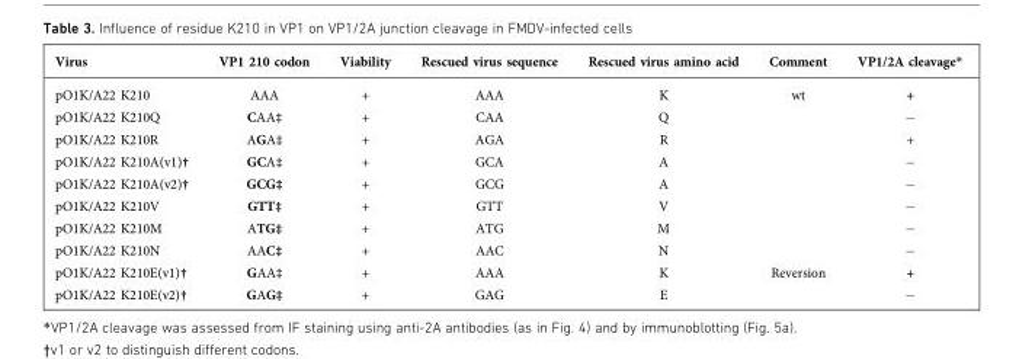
<table><thead><tr><td>Virus</td><td>VP1 210 codon</td><td>Viability</td><td>Rescued virus sequence</td><td>Rescued virus amino acid</td><td>Comment</td><td>VP1/2A cleavage*</td></tr></thead><tbody><tr><td>pO1K/A22 K210</td><td>AAA</td><td>+</td><td>AAA</td><td>K</td><td>wt</td><td>+</td></tr><tr><td>pO1K/A22 K210Q</td><td>CAA‡</td><td>+</td><td>CAA</td><td>Q</td><td></td><td>−</td></tr><tr><td>pO1K/A22 K210R</td><td>AGA‡</td><td>+</td><td>AGA</td><td>R</td><td></td><td>+</td></tr><tr><td>pO1K/A22 K210A(v1)†</td><td>GCA‡</td><td>+</td><td>GCA</td><td>A</td><td></td><td>−</td></tr><tr><td>pO1K/A22 K210A(v2)†</td><td>GCG‡</td><td>+</td><td>GCG</td><td>A</td><td></td><td>−</td></tr><tr><td>pO1K/A22 K210V</td><td>GTT‡</td><td>+</td><td>GTT</td><td>V</td><td></td><td>−</td></tr><tr><td>pO1K/A22 K210M</td><td>ATG‡</td><td>+</td><td>ATG</td><td>M</td><td></td><td>−</td></tr><tr><td>pO1K/A22 K210N</td><td>AAC‡</td><td>+</td><td>AAC</td><td>N</td><td></td><td>−</td></tr><tr><td>pO1K/A22 K210E(v1)†</td><td>GAA‡</td><td>+</td><td>AAA</td><td>K</td><td>Reversion</td><td>+</td></tr><tr><td>pO1K/A22 K210E(v2)†</td><td>GAG‡</td><td>+</td><td>GAG</td><td>E</td><td></td><td>−</td></tr></tbody></table>